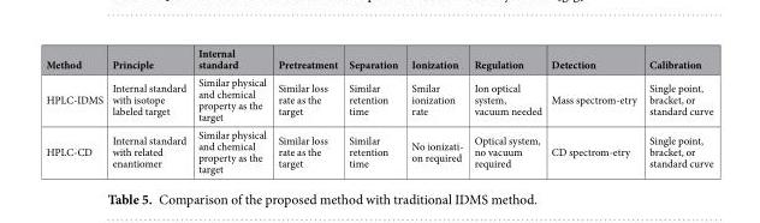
<table><thead><tr><td>Method</td><td>Principle</td><td>Internal standard</td><td>Pretreatment</td><td>Separation</td><td>Ionization</td><td>Regulation</td><td>Detection</td><td>Calibration</td></tr></thead><tbody><tr><td>HPLC-IDMS</td><td>Internal standard with isotope labeled target</td><td>Similar physical and chemical property as the target</td><td>Similar loss rate as the target</td><td>Similar retention time</td><td>Smilar ionization rate</td><td>Ion optical system, vacuum needed</td><td>Mass spectrom-etry</td><td>Single point, bracket, or standard curve</td></tr><tr><td>HPLC-CD</td><td>Internal standard with related enantiomer</td><td>Similar physical and chemical property as the target</td><td>Similar loss rate as the target</td><td>Similar retention time</td><td>No ionizati- on required</td><td>Optical system, no vacuum required</td><td>CD spectrom-etry</td><td>Single point, bracket, or standard curve</td></tr></tbody></table>